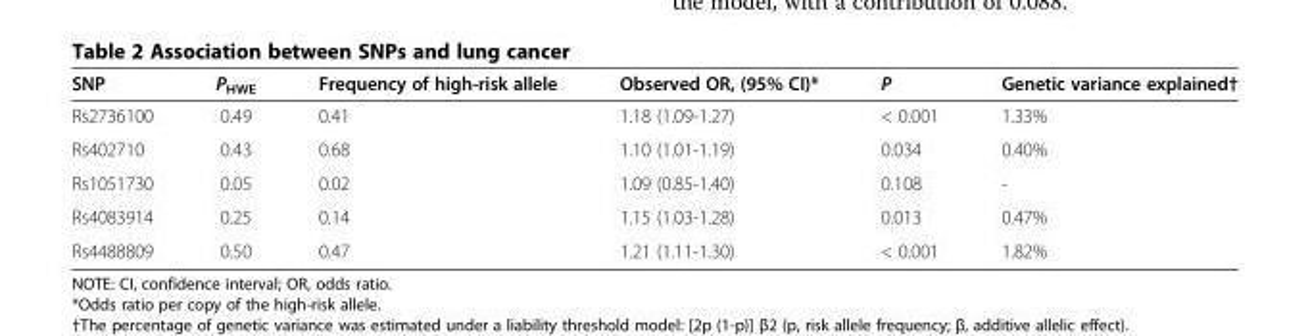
<table><thead><tr><td>SNP</td><td>P<sub>HWE</sub></td><td>Frequency of high-risk allele</td><td>Observed OR, (95% CI)*</td><td>P</td><td>Genetic variance explained†</td></tr></thead><tbody><tr><td>Rs2736100</td><td>0.49</td><td>0.41</td><td>1.18 (1.09-1.27)</td><td>&lt; 0.001</td><td>1.33%</td></tr><tr><td>Rs402710</td><td>0.43</td><td>0.68</td><td>1.10 (1.01-1.19)</td><td>0.034</td><td>0.40%</td></tr><tr><td>Rs1051730</td><td>0.05</td><td>0.02</td><td>1.09 (0.85-1.40)</td><td>0.108</td><td>-</td></tr><tr><td>Rs4083914</td><td>0.25</td><td>0.14</td><td>1.15 (1.03-1.28)</td><td>0.013</td><td>0.47%</td></tr><tr><td>Rs4488809</td><td>0.50</td><td>0.47</td><td>1.21 (1.11-1.30)</td><td>&lt; 0.001</td><td>1.82%</td></tr></tbody></table>